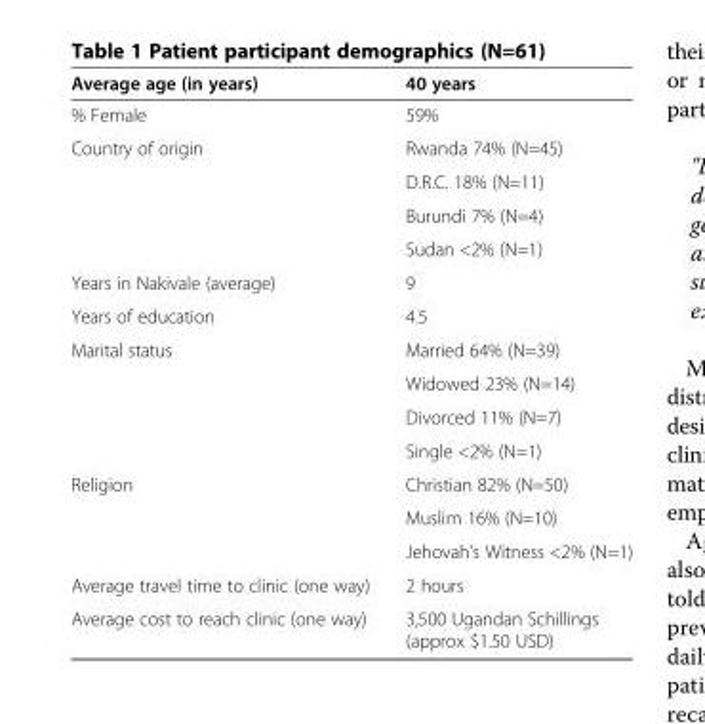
<table><thead><tr><td>Average age (in years)</td><td>40 years</td></tr></thead><tbody><tr><td>% Female</td><td>59%</td></tr><tr><td rowspan="4">Country of origin</td><td>Rwanda 74% (N=45)</td></tr><tr><td>D.R.C. 18% (N=11)</td></tr><tr><td>Burundi 7% (N=4)</td></tr><tr><td>Sudan &lt;2% (N=1)</td></tr><tr><td>Years in Nakivale (average)</td><td>9</td></tr><tr><td>Years of education</td><td>4.5</td></tr><tr><td rowspan="4">Marital status</td><td>Married 64% (N=39)</td></tr><tr><td>Widowed 23% (N=14)</td></tr><tr><td>Divorced 11% (N=7)</td></tr><tr><td>Single &lt;2% (N=1)</td></tr><tr><td rowspan="3">Religion</td><td>Christian 82% (N=50)</td></tr><tr><td>Muslim 16% (N=10)</td></tr><tr><td>Jehovah’s Witness &lt;2% (N=1)</td></tr><tr><td>Average travel time to clinic (one way)</td><td>2 hours</td></tr><tr><td>Average cost to reach clinic (one way)</td><td>3,500 Ugandan Schillings (approx $1.50 USD)</td></tr></tbody></table>